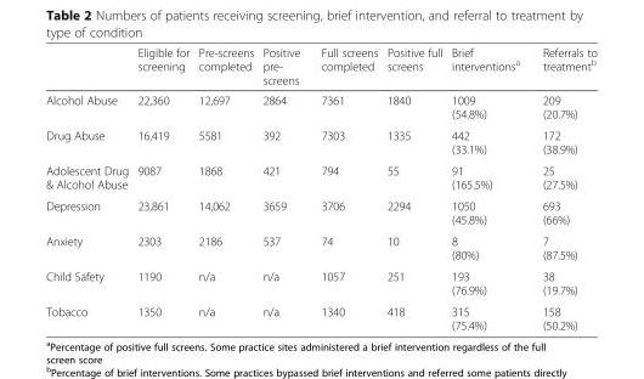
<table><thead><tr><td></td><td>Eligible for screening</td><td>Pre-screens completed</td><td>Positive pre- screens</td><td>Full screens completed</td><td>Positive full screens</td><td>Brief interventions<sup>a</sup></td><td>Referrals to treatment<sup>b</sup></td></tr></thead><tbody><tr><td>Alcohol Abuse</td><td>22,360</td><td>12,697</td><td>2864</td><td>7361</td><td>1840</td><td>1009 (54.8%)</td><td>209 (20.7%)</td></tr><tr><td>Drug Abuse</td><td>16,419</td><td>5581</td><td>392</td><td>7303</td><td>1335</td><td>442 (33.1%)</td><td>172 (38.9%)</td></tr><tr><td>Adolescent Drug &amp; Alcohol Abuse</td><td>9087</td><td>1868</td><td>421</td><td>794</td><td>55</td><td>91 (165.5%)</td><td>25 (27.5%)</td></tr><tr><td>Depression</td><td>23,861</td><td>14,062</td><td>3659</td><td>3706</td><td>2294</td><td>1050 (45.8%)</td><td>693 (66%)</td></tr><tr><td>Anxiety</td><td>2303</td><td>2186</td><td>537</td><td>74</td><td>10</td><td>8 (80%)</td><td>7 (87.5%)</td></tr><tr><td>Child Safety</td><td>1190</td><td>n/a</td><td>n/a</td><td>1057</td><td>251</td><td>193 (76.9%)</td><td>38 (19.7%)</td></tr><tr><td>Tobacco</td><td>1350</td><td>n/a</td><td>n/a</td><td>1340</td><td>418</td><td>315 (75.4%)</td><td>158 (50.2%)</td></tr></tbody></table>